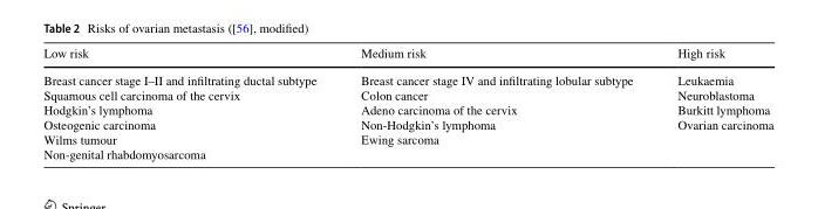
<table><thead><tr><td>Low risk</td><td>Medium risk</td><td>High risk</td></tr></thead><tbody><tr><td>Breast cancer stage I–II and infiltrating ductal subtype Squamous cell carcinoma of the cervix Hodgkin’s lymphoma Osteogenic carcinoma Wilms tumour Non-genital rhabdomyosarcoma</td><td>Breast cancer stage IV and infiltrating lobular subtype Colon cancer Adeno carcinoma of the cervix Non-Hodgkin’s lymphoma Ewing sarcoma</td><td>Leukaemia Neuroblastoma Burkitt lymphoma Ovarian carcinoma</td></tr></tbody></table>